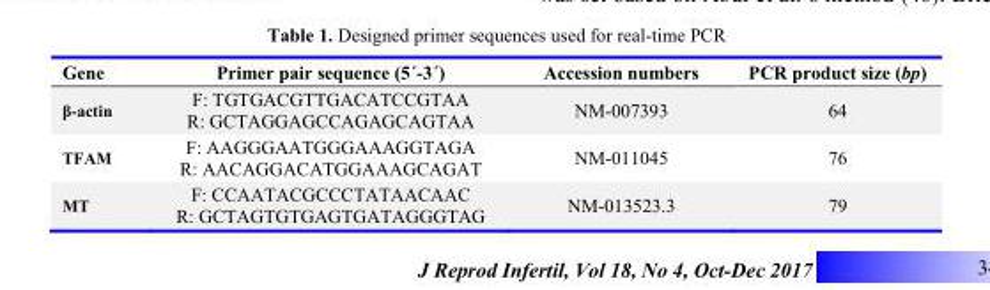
<table><thead><tr><td>Gene</td><td>Primer pair sequence (5´-3´)</td><td>Accession numbers</td><td>PCR product size (bp)</td></tr></thead><tbody><tr><td>β-actin</td><td>F: TGTGACGTTGACATCCGTAA R: GCTAGGAGCCAGAGCAGTAA</td><td>NM-007393</td><td>64</td></tr><tr><td>TFAM</td><td>F: AAGGGAATGGGAAAGGTAGA R: AACAGGACATGGAAAGCAGAT</td><td>NM-011045</td><td>76</td></tr><tr><td>MT</td><td>F: CCAATACGCCCTATAACAAC R: GCTAGTGTGAGTGATAGGGTAG</td><td>NM-013523.3</td><td>79</td></tr></tbody></table>